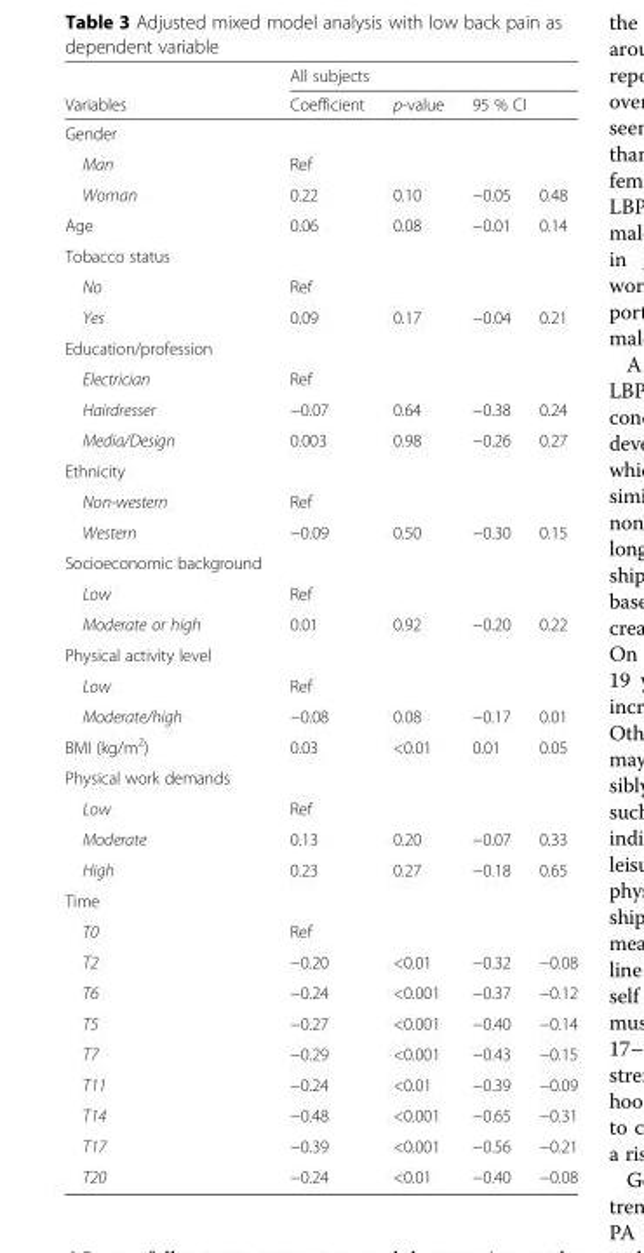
<table><thead><tr><td rowspan="3">Variables Gender</td><td colspan="4">All subjects</td></tr><tr><td rowspan="2">Coefficient</td><td rowspan="2">p-value</td><td colspan="2">95 % CI</td></tr><tr><td></td><td></td></tr></thead><tbody><tr><td>Man</td><td>Ref</td><td></td><td></td><td></td></tr><tr><td>Woman</td><td>0.22</td><td>0.10</td><td>−0.05</td><td>0.48</td></tr><tr><td>Age</td><td>0.06</td><td>0.08</td><td>−0.01</td><td>0.14</td></tr><tr><td colspan="5">Tobacco status</td></tr><tr><td>No</td><td>Ref</td><td></td><td></td><td></td></tr><tr><td>Yes</td><td>0.09</td><td>0.17</td><td>−0.04</td><td>0.21</td></tr><tr><td colspan="5">Education/profession</td></tr><tr><td>Electrician</td><td>Ref</td><td></td><td></td><td></td></tr><tr><td>Hairdresser</td><td>−0.07</td><td>0.64</td><td>−0.38</td><td>0.24</td></tr><tr><td>Media/Design</td><td>0.003</td><td>0.98</td><td>−0.26</td><td>0.27</td></tr><tr><td colspan="5">Ethnicity</td></tr><tr><td>Non-western</td><td>Ref</td><td></td><td></td><td></td></tr><tr><td>Western</td><td>−0.09</td><td>0.50</td><td>−0.30</td><td>0.15</td></tr><tr><td colspan="5">Socioeconomic background</td></tr><tr><td>Low</td><td>Ref</td><td></td><td></td><td></td></tr><tr><td>Moderate or high</td><td>0.01</td><td>0.92</td><td>−0.20</td><td>0.22</td></tr><tr><td colspan="5">Physical activity level</td></tr><tr><td>Low</td><td>Ref</td><td></td><td></td><td></td></tr><tr><td>Moderate/high</td><td>−0.08</td><td>0.08</td><td>−0.17</td><td>0.01</td></tr><tr><td>BMI (kg/m<sup>2</sup>)</td><td>0.03</td><td>&lt;0.01</td><td>0.01</td><td>0.05</td></tr><tr><td colspan="5">Physical work demands</td></tr><tr><td>Low</td><td>Ref</td><td></td><td></td><td></td></tr><tr><td>Moderate</td><td>0.13</td><td>0.20</td><td>−0.07</td><td>0.33</td></tr><tr><td>High</td><td>0.23</td><td>0.27</td><td>−0.18</td><td>0.65</td></tr><tr><td colspan="5">Time</td></tr><tr><td>T0</td><td>Ref</td><td></td><td></td><td></td></tr><tr><td>T2</td><td>−0.20</td><td>&lt;0.01</td><td>−0.32</td><td>−0.08</td></tr><tr><td>T6</td><td>−0.24</td><td>&lt;0.001</td><td>−0.37</td><td>−0.12</td></tr><tr><td>T5</td><td>−0.27</td><td>&lt;0.001</td><td>−0.40</td><td>−0.14</td></tr><tr><td>T7</td><td>−0.29</td><td>&lt;0.001</td><td>−0.43</td><td>−0.15</td></tr><tr><td>T11</td><td>−0.24</td><td>&lt;0.01</td><td>−0.39</td><td>−0.09</td></tr><tr><td>T14</td><td>−0.48</td><td>&lt;0.001</td><td>−0.65</td><td>−0.31</td></tr><tr><td>T17</td><td>−0.39</td><td>&lt;0.001</td><td>−0.56</td><td>−0.21</td></tr><tr><td>T20</td><td>−0.24</td><td>&lt;0.01</td><td>−0.40</td><td>−0.08</td></tr></tbody></table>